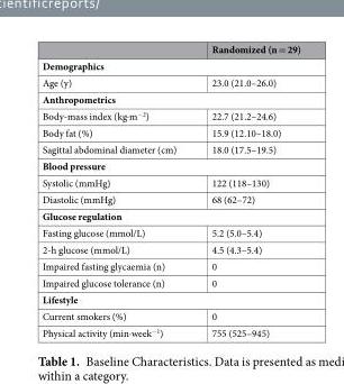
<table><thead><tr><td></td><td>Randomized (n = 29)</td></tr></thead><tbody><tr><td colspan="2">Demographics</td></tr><tr><td>Age (y)</td><td>23.0 (21.0–26.0)</td></tr><tr><td colspan="2">Anthropometrics</td></tr><tr><td>Body-mass index (kg∙m<sup>−2</sup>)</td><td>22.7 (21.2–24.6)</td></tr><tr><td>Body fat (%)</td><td>15.9 (12.10–18.0)</td></tr><tr><td>Sagittal abdominal diameter (cm)</td><td>18.0 (17.5–19.5)</td></tr><tr><td colspan="2">Blood pressure</td></tr><tr><td>Systolic (mmHg)</td><td>122 (118–130)</td></tr><tr><td>Diastolic (mmHg)</td><td>68 (62–72)</td></tr><tr><td colspan="2">Glucose regulation</td></tr><tr><td>Fasting glucose (mmol/L)</td><td>5.2 (5.0–5.4)</td></tr><tr><td>2-h glucose (mmol/L)</td><td>4.5 (4.3–5.4)</td></tr><tr><td>Impaired fasting glycaemia (n)</td><td>0</td></tr><tr><td>Impaired glucose tolerance (n)</td><td>0</td></tr><tr><td colspan="2">Lifestyle</td></tr><tr><td>Current smokers (%)</td><td>0</td></tr><tr><td>Physical activity (min∙week<sup>−1</sup>)</td><td>755 (525–945)</td></tr></tbody></table>